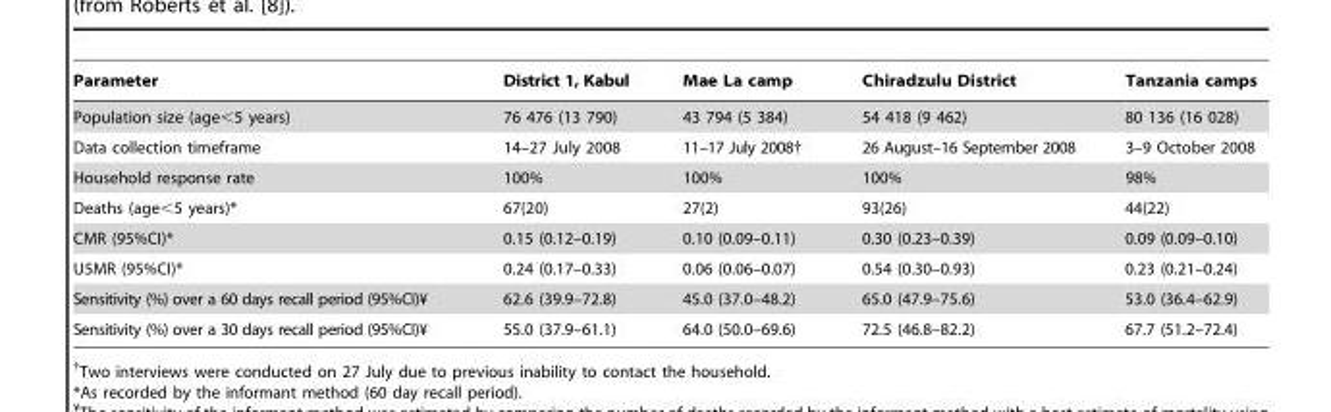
<table><thead><tr><td>Parameter</td><td>District 1, Kabul</td><td>Mae La camp</td><td>Chiradzulu District</td><td>Tanzania camps</td></tr></thead><tbody><tr><td>Population size (age&lt;5 years)</td><td>76 476 (13 790)</td><td>43 794 (5 384)</td><td>54 418 (9 462)</td><td>80 136 (16 028)</td></tr><tr><td>Data collection timeframe</td><td>14–27 July 2008</td><td>11–17 July 2008†</td><td>26 August–16 September 2008</td><td>3–9 October 2008</td></tr><tr><td>Household response rate</td><td>100%</td><td>100%</td><td>100%</td><td>98%</td></tr><tr><td>Deaths (age&lt;5 years)*</td><td>67(20)</td><td>27(2)</td><td>93(26)</td><td>44(22)</td></tr><tr><td>CMR (95%CI)*</td><td>0.15 (0.12–0.19)</td><td>0.10 (0.09–0.11)</td><td>0.30 (0.23–0.39)</td><td>0.09 (0.09–0.10)</td></tr><tr><td>U5MR (95%CI)*</td><td>0.24 (0.17–0.33)</td><td>0.06 (0.06–0.07)</td><td>0.54 (0.30–0.93)</td><td>0.23 (0.21–0.24)</td></tr><tr><td>Sensitivity (%) over a 60 days recall period (95%CI)¥</td><td>62.6 (39.9–72.8)</td><td>45.0 (37.0–48.2)</td><td>65.0 (47.9–75.6)</td><td>53.0 (36.4–62.9)</td></tr><tr><td>Sensitivity (%) over a 30 days recall period (95%CI)¥</td><td>55.0 (37.9–61.1)</td><td>64.0 (50.0–69.6)</td><td>72.5 (46.8–82.2)</td><td>67.7 (51.2–72.4)</td></tr></tbody></table>